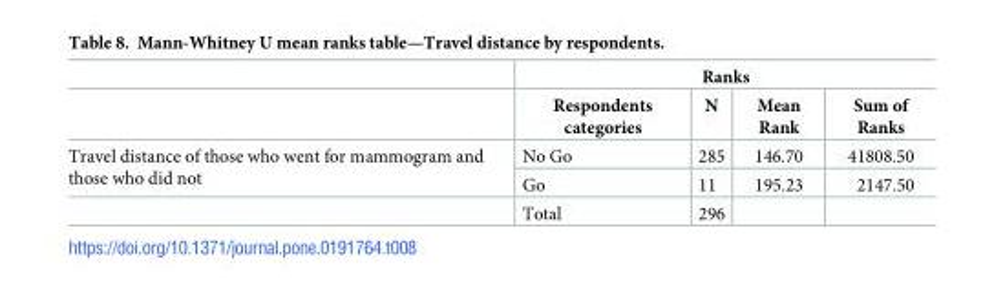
<table><thead><tr><td rowspan="2"></td><td colspan="4">Ranks</td></tr><tr><td>Respondents categories</td><td>N</td><td>Mean Rank</td><td>Sum of Ranks</td></tr></thead><tbody><tr><td rowspan="3">Travel distance of those who went for mammogram and those who did not</td><td>No Go</td><td>285</td><td>146.70</td><td>41808.50</td></tr><tr><td>Go</td><td>11</td><td>195.23</td><td>2147.50</td></tr><tr><td>Total</td><td>296</td><td></td><td></td></tr></tbody></table>